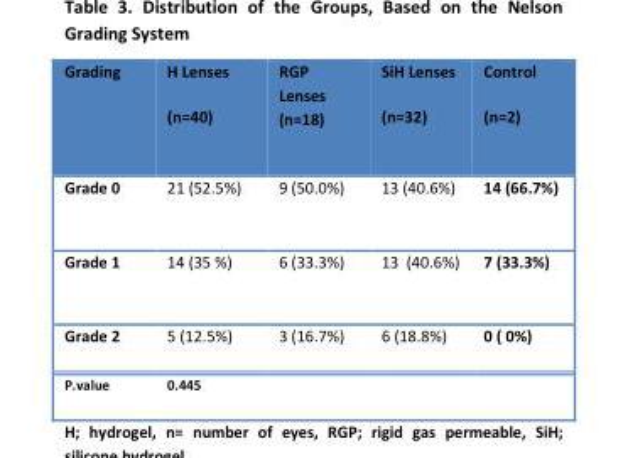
<table><thead><tr><td>Grading</td><td>H Lenses (n=40)</td><td>RGP Lenses (n=18)</td><td>SiH Lenses (n=32)</td><td>Control (n=2)</td></tr></thead><tbody><tr><td>Grade 0</td><td>21 (52.5%)</td><td>9 (50.0%)</td><td>13 (40.6%)</td><td>14 (66.7%)</td></tr><tr><td>Grade 1</td><td>14 (35 %)</td><td>6 (33.3%)</td><td>13 (40.6%)</td><td>7 (33.3%)</td></tr><tr><td>Grade 2</td><td>5 (12.5%)</td><td>3 (16.7%)</td><td>6 (18.8%)</td><td>0 ( 0%)</td></tr><tr><td>P.value</td><td colspan="4">0.445</td></tr></tbody></table>